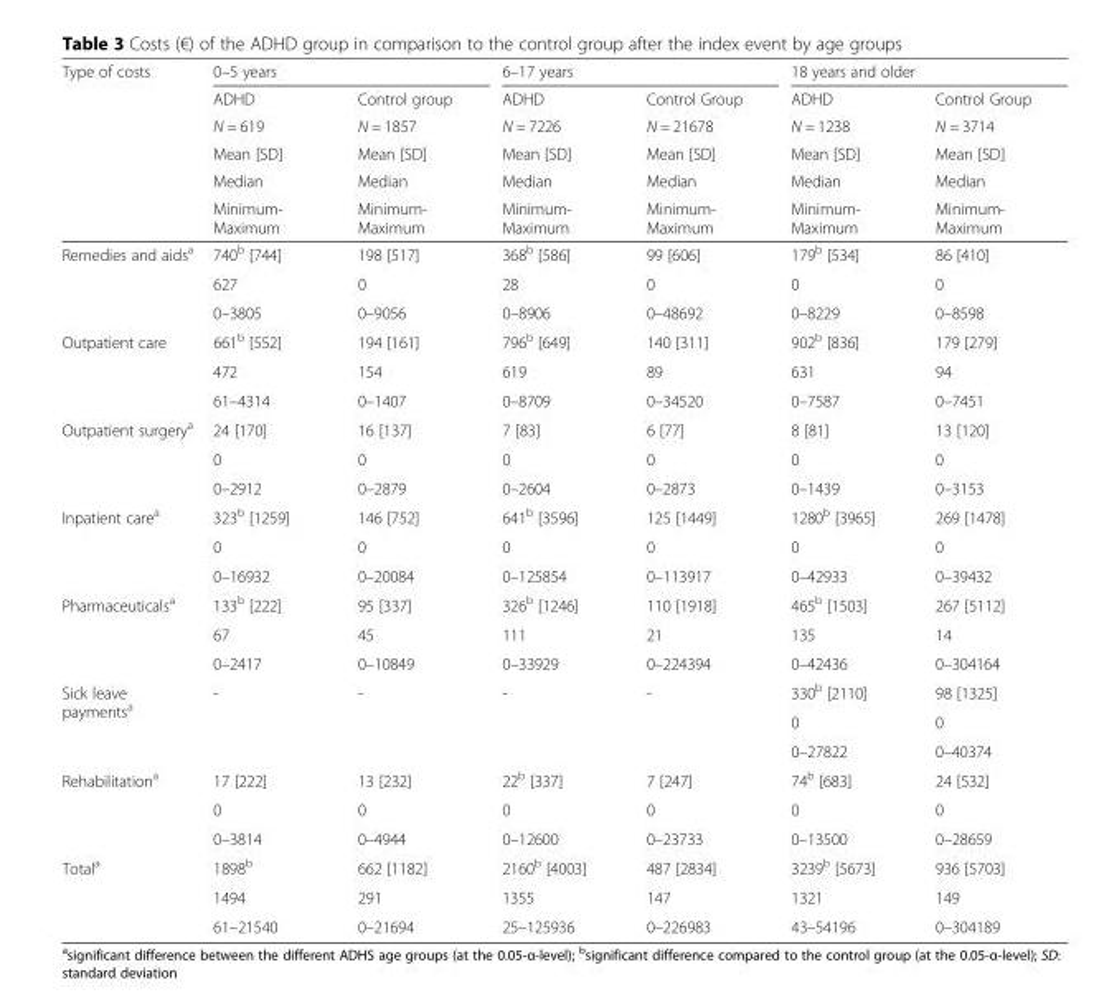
<table><thead><tr><td rowspan="6">Type of costs</td><td colspan="2">0–5 years</td><td colspan="2">6–17 years</td><td colspan="2">18 years and older</td></tr><tr><td rowspan="5">ADHD N = 619 Mean [SD] Median Minimum- Maximum</td><td rowspan="5">Control group N = 1857 Mean [SD] Median Minimum- Maximum</td><td rowspan="5">ADHD N = 7226 Mean [SD] Median Minimum- Maximum</td><td rowspan="5">Control Group N = 21678 Mean [SD] Median Minimum- Maximum</td><td rowspan="5">ADHD N = 1238 Mean [SD] Median Minimum- Maximum</td><td rowspan="5">Control Group N = 3714 Mean [SD] Median Minimum- Maximum</td></tr><tr></tr><tr></tr><tr></tr><tr></tr></thead><tbody><tr><td rowspan="3">Remedies and aids<sup>a</sup></td><td>740<sup>b</sup> [744]</td><td>198 [517]</td><td>368<sup>b</sup> [586]</td><td>99 [606]</td><td>179<sup>b</sup> [534]</td><td>86 [410]</td></tr><tr><td>627</td><td>0</td><td>28</td><td>0</td><td>0</td><td>0</td></tr><tr><td>0–3805</td><td>0–9056</td><td>0–8906</td><td>0–48692</td><td>0–8229</td><td>0–8598</td></tr><tr><td rowspan="3">Outpatient care</td><td>661<sup>b</sup> [552]</td><td>194 [161]</td><td>796<sup>b</sup> [649]</td><td>140 [311]</td><td>902<sup>b</sup> [836]</td><td>179 [279]</td></tr><tr><td>472</td><td>154</td><td>619</td><td>89</td><td>631</td><td>94</td></tr><tr><td>61–4314</td><td>0–1407</td><td>0–8709</td><td>0–34520</td><td>0–7587</td><td>0–7451</td></tr><tr><td rowspan="3">Outpatient surgery<sup>a</sup></td><td>24 [170]</td><td>16 [137]</td><td>7 [83]</td><td>6 [77]</td><td>8 [81]</td><td>13 [120]</td></tr><tr><td>0</td><td>0</td><td>0</td><td>0</td><td>0</td><td>0</td></tr><tr><td>0–2912</td><td>0–2879</td><td>0–2604</td><td>0–2873</td><td>0–1439</td><td>0–3153</td></tr><tr><td rowspan="3">Inpatient care<sup>a</sup></td><td>323<sup>b</sup> [1259]</td><td>146 [752]</td><td>641<sup>b</sup> [3596]</td><td>125 [1449]</td><td>1280<sup>b</sup> [3965]</td><td>269 [1478]</td></tr><tr><td>0</td><td>0</td><td>0</td><td>0</td><td>0</td><td>0</td></tr><tr><td>0–16932</td><td>0–20084</td><td>0–125854</td><td>0–113917</td><td>0–42933</td><td>0–39432</td></tr><tr><td rowspan="3">Pharmaceuticals<sup>a</sup></td><td>133<sup>b</sup> [222]</td><td>95 [337]</td><td>326<sup>b</sup> [1246]</td><td>110 [1918]</td><td>465<sup>b</sup> [1503]</td><td>267 [5112]</td></tr><tr><td>67</td><td>45</td><td>111</td><td>21</td><td>135</td><td>14</td></tr><tr><td>0–2417</td><td>0–10849</td><td>0–33929</td><td>0–224394</td><td>0–42436</td><td>0–304164</td></tr><tr><td rowspan="3">Sick leave payments<sup>a</sup></td><td rowspan="3">-</td><td rowspan="3">-</td><td rowspan="3">-</td><td rowspan="3">-</td><td>330<sup>b</sup> [2110]</td><td>98 [1325]</td></tr><tr><td>0</td><td>0</td></tr><tr><td>0–27822</td><td>0–40374</td></tr><tr><td rowspan="3">Rehabilitation<sup>a</sup></td><td>17 [222]</td><td>13 [232]</td><td>22<sup>b</sup> [337]</td><td>7 [247]</td><td>74<sup>b</sup> [683]</td><td>24 [532]</td></tr><tr><td>0</td><td>0</td><td>0</td><td>0</td><td>0</td><td>0</td></tr><tr><td>0–3814</td><td>0–4944</td><td>0–12600</td><td>0–23733</td><td>0–13500</td><td>0–28659</td></tr><tr><td rowspan="3">Total<sup>a</sup></td><td>1898<sup>b</sup></td><td>662 [1182]</td><td>2160<sup>b</sup> [4003]</td><td>487 [2834]</td><td>3239<sup>b</sup> [5673]</td><td>936 [5703]</td></tr><tr><td>1494</td><td>291</td><td>1355</td><td>147</td><td>1321</td><td>149</td></tr><tr><td>61–21540</td><td>0–21694</td><td>25–125936</td><td>0–226983</td><td>43–54196</td><td>0–304189</td></tr></tbody></table>